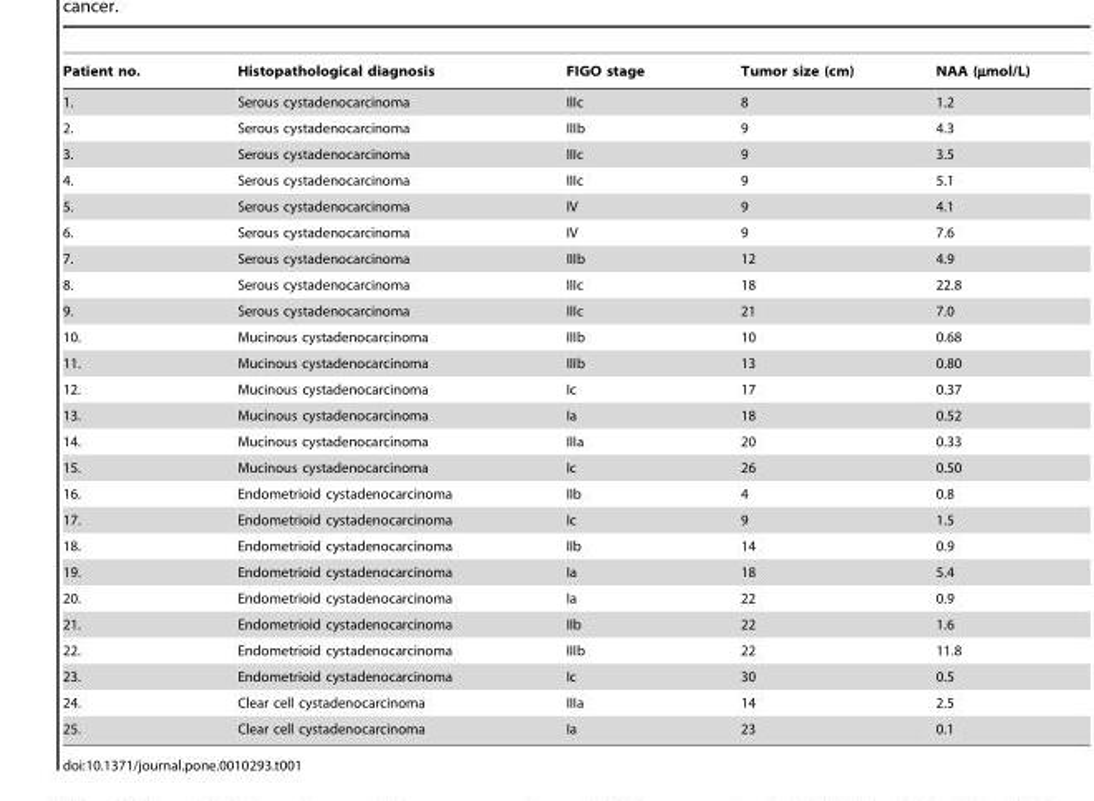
<table><thead><tr><td>Patient no.</td><td>Histopathological diagnosis</td><td>FIGO stage</td><td>Tumor size (cm)</td><td>NAA (µmol/L)</td></tr></thead><tbody><tr><td>1.</td><td>Serous cystadenocarcinoma</td><td>IIIc</td><td>8</td><td>1.2</td></tr><tr><td>2.</td><td>Serous cystadenocarcinoma</td><td>IIIb</td><td>9</td><td>4.3</td></tr><tr><td>3.</td><td>Serous cystadenocarcinoma</td><td>IIIc</td><td>9</td><td>3.5</td></tr><tr><td>4.</td><td>Serous cystadenocarcinoma</td><td>IIIc</td><td>9</td><td>5.1</td></tr><tr><td>5.</td><td>Serous cystadenocarcinoma</td><td>IV</td><td>9</td><td>4.1</td></tr><tr><td>6.</td><td>Serous cystadenocarcinoma</td><td>IV</td><td>9</td><td>7.6</td></tr><tr><td>7.</td><td>Serous cystadenocarcinoma</td><td>IIIb</td><td>12</td><td>4.9</td></tr><tr><td>8.</td><td>Serous cystadenocarcinoma</td><td>IIIc</td><td>18</td><td>22.8</td></tr><tr><td>9.</td><td>Serous cystadenocarcinoma</td><td>IIIc</td><td>21</td><td>7.0</td></tr><tr><td>10.</td><td>Mucinous cystadenocarcinoma</td><td>IIIb</td><td>10</td><td>0.68</td></tr><tr><td>11.</td><td>Mucinous cystadenocarcinoma</td><td>IIIb</td><td>13</td><td>0.80</td></tr><tr><td>12.</td><td>Mucinous cystadenocarcinoma</td><td>Ic</td><td>17</td><td>0.37</td></tr><tr><td>13.</td><td>Mucinous cystadenocarcinoma</td><td>Ia</td><td>18</td><td>0.52</td></tr><tr><td>14.</td><td>Mucinous cystadenocarcinoma</td><td>IIIa</td><td>20</td><td>0.33</td></tr><tr><td>15.</td><td>Mucinous cystadenocarcinoma</td><td>Ic</td><td>26</td><td>0.50</td></tr><tr><td>16.</td><td>Endometrioid cystadenocarcinoma</td><td>IIb</td><td>4</td><td>0.8</td></tr><tr><td>17.</td><td>Endometrioid cystadenocarcinoma</td><td>Ic</td><td>9</td><td>1.5</td></tr><tr><td>18.</td><td>Endometrioid cystadenocarcinoma</td><td>IIb</td><td>14</td><td>0.9</td></tr><tr><td>19.</td><td>Endometrioid cystadenocarcinoma</td><td>Ia</td><td>18</td><td>5.4</td></tr><tr><td>20.</td><td>Endometrioid cystadenocarcinoma</td><td>Ia</td><td>22</td><td>0.9</td></tr><tr><td>21.</td><td>Endometrioid cystadenocarcinoma</td><td>IIb</td><td>22</td><td>1.6</td></tr><tr><td>22.</td><td>Endometrioid cystadenocarcinoma</td><td>IIIb</td><td>22</td><td>11.8</td></tr><tr><td>23.</td><td>Endometrioid cystadenocarcinoma</td><td>Ic</td><td>30</td><td>0.5</td></tr><tr><td>24.</td><td>Clear cell cystadenocarcinoma</td><td>IIIa</td><td>14</td><td>2.5</td></tr><tr><td>25.</td><td>Clear cell cystadenocarcinoma</td><td>Ia</td><td>23</td><td>0.1</td></tr></tbody></table>